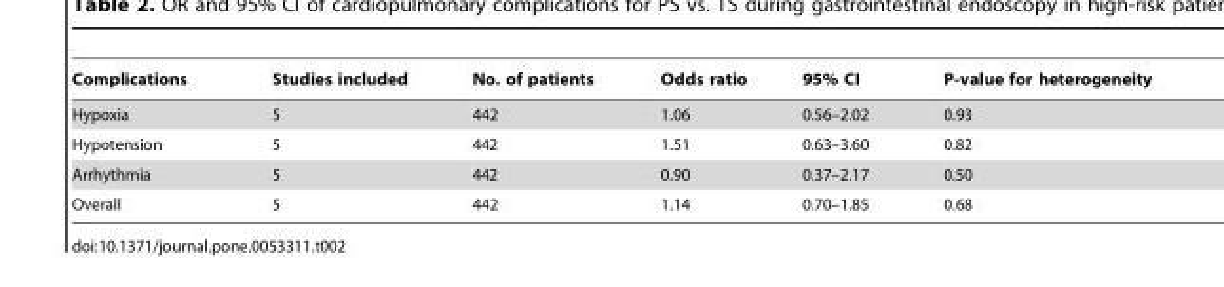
<table><thead><tr><td>Complications</td><td>Studies included</td><td>No. of patients</td><td>Odds ratio</td><td>95% CI</td><td>P-value for heterogeneity</td></tr></thead><tbody><tr><td>Hypoxia</td><td>5</td><td>442</td><td>1.06</td><td>0.56–2.02</td><td>0.93</td></tr><tr><td>Hypotension</td><td>5</td><td>442</td><td>1.51</td><td>0.63–3.60</td><td>0.82</td></tr><tr><td>Arrhythmia</td><td>5</td><td>442</td><td>0.90</td><td>0.37–2.17</td><td>0.50</td></tr><tr><td>Overall</td><td>5</td><td>442</td><td>1.14</td><td>0.70–1.85</td><td>0.68</td></tr></tbody></table>